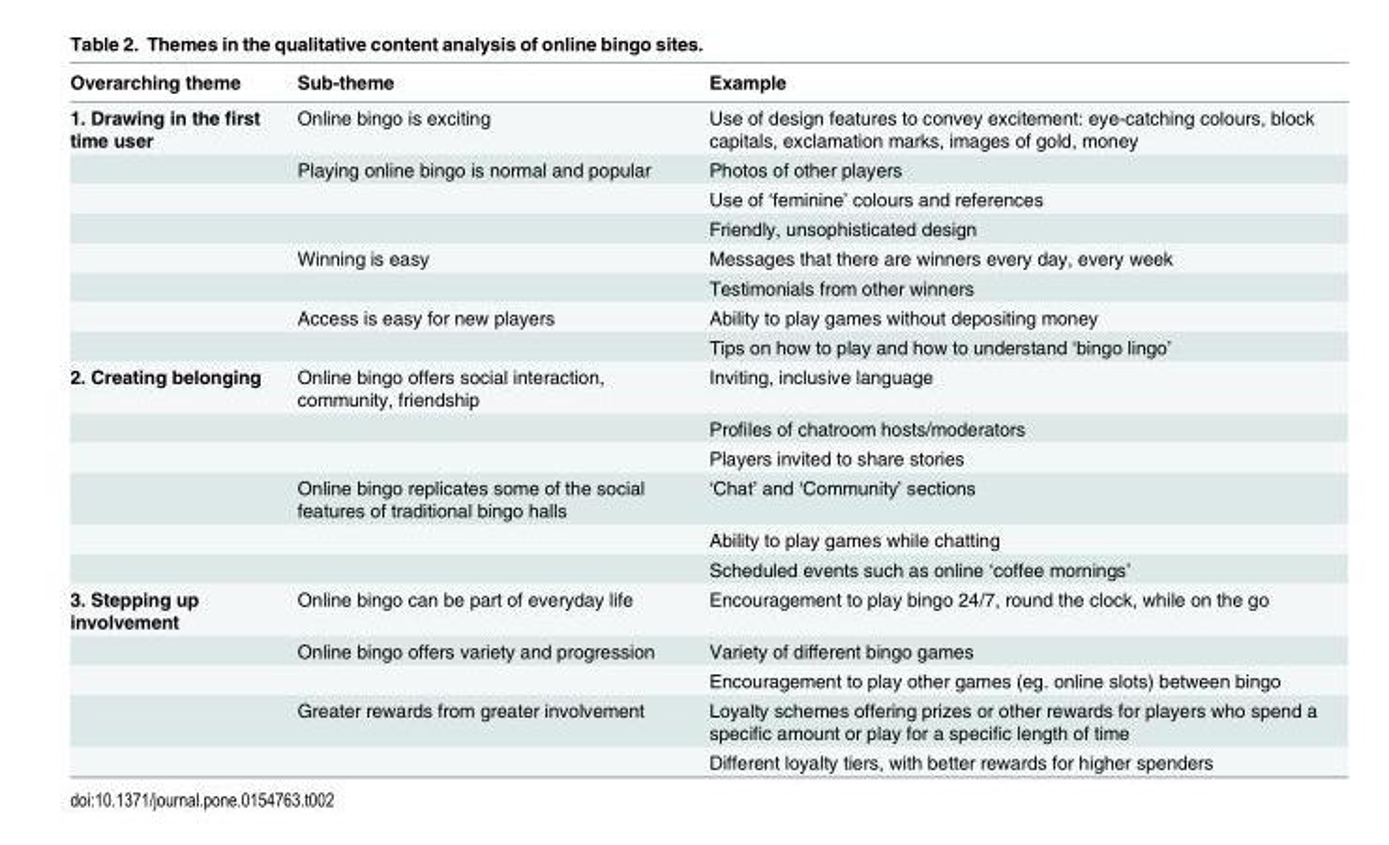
<table><thead><tr><td>Overarching theme</td><td>Sub-theme</td><td>Example</td></tr></thead><tbody><tr><td rowspan="8">1. Drawing in the first time user</td><td>Online bingo is exciting</td><td>Use of design features to convey excitement: eye-catching colours, block capitals, exclamation marks, images of gold, money</td></tr><tr><td>Playing online bingo is normal and popular</td><td>Photos of other players</td></tr><tr><td></td><td>Use of ‘feminine’ colours and references</td></tr><tr><td></td><td>Friendly, unsophisticated design</td></tr><tr><td>Winning is easy</td><td>Messages that there are winners every day, every week</td></tr><tr><td></td><td>Testimonials from other winners</td></tr><tr><td>Access is easy for new players</td><td>Ability to play games without depositing money</td></tr><tr><td></td><td>Tips on how to play and how to understand ‘bingo lingo’</td></tr><tr><td rowspan="6">2. Creating belonging</td><td>Online bingo offers social interaction, community, friendship</td><td>Inviting, inclusive language</td></tr><tr><td></td><td>Profiles of chatroom hosts/moderators</td></tr><tr><td></td><td>Players invited to share stories</td></tr><tr><td>Online bingo replicates some of the social features of traditional bingo halls</td><td>‘Chat’ and ‘Community’ sections</td></tr><tr><td></td><td>Ability to play games while chatting</td></tr><tr><td></td><td>Scheduled events such as online ‘coffee mornings’</td></tr><tr><td rowspan="5">3. Stepping up involvement</td><td>Online bingo can be part of everyday life</td><td>Encouragement to play bingo 24/7, round the clock, while on the go</td></tr><tr><td>Online bingo offers variety and progression</td><td>Variety of different bingo games</td></tr><tr><td></td><td>Encouragement to play other games (eg. online slots) between bingo</td></tr><tr><td>Greater rewards from greater involvement</td><td>Loyalty schemes offering prizes or other rewards for players who spend a specific amount or play for a specific length of time</td></tr><tr><td></td><td>Different loyalty tiers, with better rewards for higher spenders</td></tr></tbody></table>